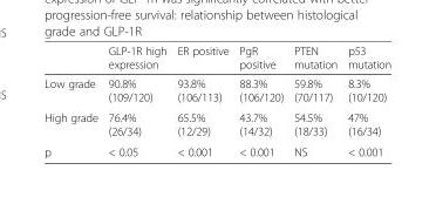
<table><thead><tr><td></td><td>GLP-1R high expression</td><td>ER positive</td><td>PgR positive</td><td>PTEN mutation</td><td>p53 mutation</td></tr></thead><tbody><tr><td>Low grade</td><td>90.8% (109/120)</td><td>93.8% (106/113)</td><td>88.3% (106/120)</td><td>59.8% (70/117)</td><td>8.3% (10/120)</td></tr><tr><td>High grade</td><td>76.4% (26/34)</td><td>65.5% (12/29)</td><td>43.7% (14/32)</td><td>54.5% (18/33)</td><td>47% (16/34)</td></tr><tr><td>p</td><td>&lt; 0.05</td><td>&lt; 0.001</td><td>&lt; 0.001</td><td>NS</td><td>&lt; 0.001</td></tr></tbody></table>